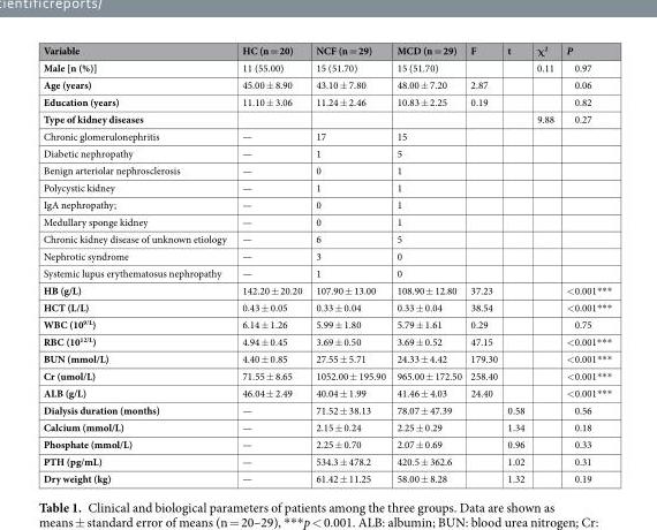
<table><thead><tr><td>Variable</td><td>HC (n = 20)</td><td>NCF (n = 29)</td><td>MCD (n = 29)</td><td>F</td><td>t</td><td>χ<sup>2</sup></td><td>P</td></tr></thead><tbody><tr><td>Male [n (%)]</td><td>11 (55.00)</td><td>15 (51.70)</td><td>15 (51.70)</td><td></td><td></td><td>0.11</td><td>0.97</td></tr><tr><td>Age (years)</td><td>45.00 ± 8.90</td><td>43.10 ± 7.80</td><td>48.00 ± 7.20</td><td>2.87</td><td></td><td></td><td>0.06</td></tr><tr><td>Education (years)</td><td>11.10 ± 3.06</td><td>11.24 ± 2.46</td><td>10.83 ± 2.25</td><td>0.19</td><td></td><td></td><td>0.82</td></tr><tr><td>Type of kidney diseases</td><td></td><td></td><td></td><td></td><td></td><td>9.88</td><td>0.27</td></tr><tr><td>Chronic glomerulonephritis</td><td>—</td><td>17</td><td>15</td><td></td><td></td><td></td><td></td></tr><tr><td>Diabetic nephropathy</td><td>—</td><td>1</td><td>5</td><td></td><td></td><td></td><td></td></tr><tr><td>Benign arteriolar nephrosclerosis</td><td>—</td><td>0</td><td>1</td><td></td><td></td><td></td><td></td></tr><tr><td>Polycystic kidney</td><td>—</td><td>1</td><td>1</td><td></td><td></td><td></td><td></td></tr><tr><td>IgA nephropathy;</td><td>—</td><td>0</td><td>1</td><td></td><td></td><td></td><td></td></tr><tr><td>Medullary sponge kidney</td><td>—</td><td>0</td><td>1</td><td></td><td></td><td></td><td></td></tr><tr><td>Chronic kidney disease of unknown etiology</td><td>—</td><td>6</td><td>5</td><td></td><td></td><td></td><td></td></tr><tr><td>Nephrotic syndrome</td><td>—</td><td>3</td><td>0</td><td></td><td></td><td></td><td></td></tr><tr><td>Systemic lupus erythematosus nephropathy</td><td>—</td><td>1</td><td>0</td><td></td><td></td><td></td><td></td></tr><tr><td>HB (g/L)</td><td>142.20 ± 20.20</td><td>107.90 ± 13.00</td><td>108.90 ± 12.80</td><td>37.23</td><td></td><td></td><td>&lt;0.001***</td></tr><tr><td>HCT (L/L)</td><td>0.43 ± 0.05</td><td>0.33 ± 0.04</td><td>0.33 ± 0.04</td><td>38.54</td><td></td><td></td><td>&lt;0.001***</td></tr><tr><td>WBC (10<sup>9/L</sup>)</td><td>6.14 ± 1.26</td><td>5.99 ± 1.80</td><td>5.79 ± 1.61</td><td>0.29</td><td></td><td></td><td>0.75</td></tr><tr><td>RBC (10<sup>12/L</sup>)</td><td>4.94 ± 0.45</td><td>3.69 ± 0.50</td><td>3.69 ± 0.52</td><td>47.15</td><td></td><td></td><td>&lt;0.001***</td></tr><tr><td>BUN (mmol/L)</td><td>4.40 ± 0.85</td><td>27.55 ± 5.71</td><td>24.33 ± 4.42</td><td>179.30</td><td></td><td></td><td>&lt;0.001***</td></tr><tr><td>Cr (umol/L)</td><td>71.55 ± 8.65</td><td>1052.00 ± 195.90</td><td>965.00 ± 172.50</td><td>258.40</td><td></td><td></td><td>&lt;0.001***</td></tr><tr><td>ALB (g/L)</td><td>46.04 ± 2.49</td><td>40.04 ± 1.99</td><td>41.46 ± 4.03</td><td>24.40</td><td></td><td></td><td>&lt;0.001***</td></tr><tr><td>Dialysis duration (months)</td><td>—</td><td>71.52 ± 38.13</td><td>78.07 ± 47.39</td><td></td><td>0.58</td><td></td><td>0.56</td></tr><tr><td>Calcium (mmol/L)</td><td>—</td><td>2.15 ± 0.24</td><td>2.25 ± 0.29</td><td></td><td>1.34</td><td></td><td>0.18</td></tr><tr><td>Phosphate (mmol/L)</td><td>—</td><td>2.25 ± 0.70</td><td>2.07 ± 0.69</td><td></td><td>0.96</td><td></td><td>0.33</td></tr><tr><td>PTH (pg/mL)</td><td>—</td><td>534.3 ± 478.2</td><td>420.5 ± 362.6</td><td></td><td>1.02</td><td></td><td>0.31</td></tr><tr><td>Dry weight (kg)</td><td>—</td><td>61.42 ± 11.25</td><td>58.00 ± 8.28</td><td></td><td>1.32</td><td></td><td>0.19</td></tr></tbody></table>